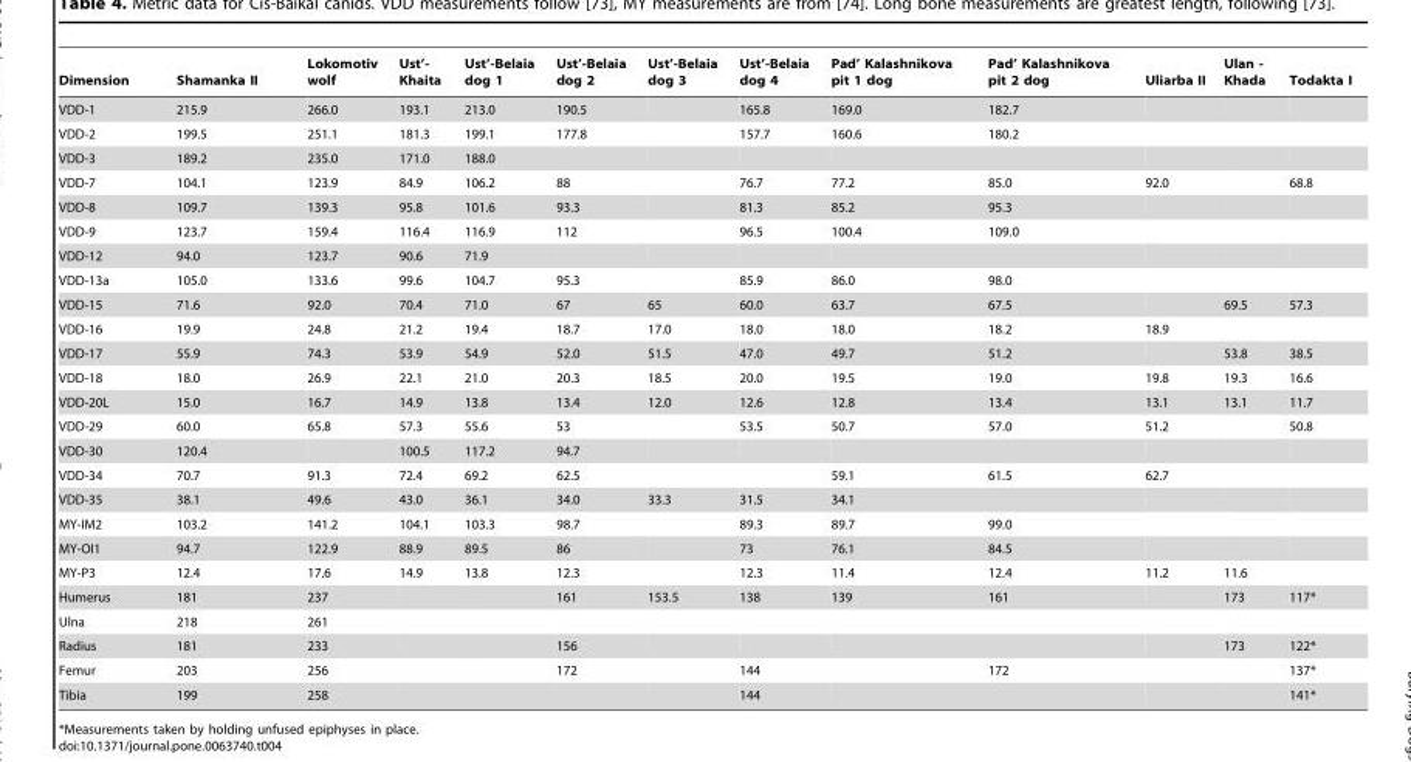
<table><thead><tr><td>Dimension</td><td>Shamanka II</td><td>Lokomotiv wolf</td><td>Ust’- Khaita</td><td>Ust’-Belaia dog 1</td><td>Ust’-Belaia dog 2</td><td>Ust’-Belaia dog 3</td><td>Ust’-Belaia dog 4</td><td>Pad’ Kalashnikova pit 1 dog</td><td>Pad’ Kalashnikova pit 2 dog</td><td>Uliarba II</td><td>Ulan - Khada</td><td>Todakta I</td></tr></thead><tbody><tr><td>VDD-1</td><td>215.9</td><td>266.0</td><td>193.1</td><td>213.0</td><td>190.5</td><td></td><td>165.8</td><td>169.0</td><td>182.7</td><td></td><td></td><td></td></tr><tr><td>VDD-2</td><td>199.5</td><td>251.1</td><td>181.3</td><td>199.1</td><td>177.8</td><td></td><td>157.7</td><td>160.6</td><td>180.2</td><td></td><td></td><td></td></tr><tr><td>VDD-3</td><td>189.2</td><td>235.0</td><td>171.0</td><td>188.0</td><td></td><td></td><td></td><td></td><td></td><td></td><td></td><td></td></tr><tr><td>VDD-7</td><td>104.1</td><td>123.9</td><td>84.9</td><td>106.2</td><td>88</td><td></td><td>76.7</td><td>77.2</td><td>85.0</td><td>92.0</td><td></td><td>68.8</td></tr><tr><td>VDD-8</td><td>109.7</td><td>139.3</td><td>95.8</td><td>101.6</td><td>93.3</td><td></td><td>81.3</td><td>85.2</td><td>95.3</td><td></td><td></td><td></td></tr><tr><td>VDD-9</td><td>123.7</td><td>159.4</td><td>116.4</td><td>116.9</td><td>112</td><td></td><td>96.5</td><td>100.4</td><td>109.0</td><td></td><td></td><td></td></tr><tr><td>VDD-12</td><td>94.0</td><td>123.7</td><td>90.6</td><td>71.9</td><td></td><td></td><td></td><td></td><td></td><td></td><td></td><td></td></tr><tr><td>VDD-13a</td><td>105.0</td><td>133.6</td><td>99.6</td><td>104.7</td><td>95.3</td><td></td><td>85.9</td><td>86.0</td><td>98.0</td><td></td><td></td><td></td></tr><tr><td>VDD-15</td><td>71.6</td><td>92.0</td><td>70.4</td><td>71.0</td><td>67</td><td>65</td><td>60.0</td><td>63.7</td><td>67.5</td><td></td><td>69.5</td><td>57.3</td></tr><tr><td>VDD-16</td><td>19.9</td><td>24.8</td><td>21.2</td><td>19.4</td><td>18.7</td><td>17.0</td><td>18.0</td><td>18.0</td><td>18.2</td><td>18.9</td><td></td><td></td></tr><tr><td>VDD-17</td><td>55.9</td><td>74.3</td><td>53.9</td><td>54.9</td><td>52.0</td><td>51.5</td><td>47.0</td><td>49.7</td><td>51.2</td><td></td><td>53.8</td><td>38.5</td></tr><tr><td>VDD-18</td><td>18.0</td><td>26.9</td><td>22.1</td><td>21.0</td><td>20.3</td><td>18.5</td><td>20.0</td><td>19.5</td><td>19.0</td><td>19.8</td><td>19.3</td><td>16.6</td></tr><tr><td>VDD-20L</td><td>15.0</td><td>16.7</td><td>14.9</td><td>13.8</td><td>13.4</td><td>12.0</td><td>12.6</td><td>12.8</td><td>13.4</td><td>13.1</td><td>13.1</td><td>11.7</td></tr><tr><td>VDD-29</td><td>60.0</td><td>65.8</td><td>57.3</td><td>55.6</td><td>53</td><td></td><td>53.5</td><td>50.7</td><td>57.0</td><td>51.2</td><td></td><td>50.8</td></tr><tr><td>VDD-30</td><td>120.4</td><td></td><td>100.5</td><td>117.2</td><td>94.7</td><td></td><td></td><td></td><td></td><td></td><td></td><td></td></tr><tr><td>VDD-34</td><td>70.7</td><td>91.3</td><td>72.4</td><td>69.2</td><td>62.5</td><td></td><td></td><td>59.1</td><td>61.5</td><td>62.7</td><td></td><td></td></tr><tr><td>VDD-35</td><td>38.1</td><td>49.6</td><td>43.0</td><td>36.1</td><td>34.0</td><td>33.3</td><td>31.5</td><td>34.1</td><td></td><td></td><td></td><td></td></tr><tr><td>MY-IM2</td><td>103.2</td><td>141.2</td><td>104.1</td><td>103.3</td><td>98.7</td><td></td><td>89.3</td><td>89.7</td><td>99.0</td><td></td><td></td><td></td></tr><tr><td>MY-OI1</td><td>94.7</td><td>122.9</td><td>88.9</td><td>89.5</td><td>86</td><td></td><td>73</td><td>76.1</td><td>84.5</td><td></td><td></td><td></td></tr><tr><td>MY-P3</td><td>12.4</td><td>17.6</td><td>14.9</td><td>13.8</td><td>12.3</td><td></td><td>12.3</td><td>11.4</td><td>12.4</td><td>11.2</td><td>11.6</td><td></td></tr><tr><td>Humerus</td><td>181</td><td>237</td><td></td><td></td><td>161</td><td>153.5</td><td>138</td><td>139</td><td>161</td><td></td><td>173</td><td>117*</td></tr><tr><td>Ulna</td><td>218</td><td>261</td><td></td><td></td><td></td><td></td><td></td><td></td><td></td><td></td><td></td><td></td></tr><tr><td>Radius</td><td>181</td><td>233</td><td></td><td></td><td>156</td><td></td><td></td><td></td><td></td><td></td><td>173</td><td>122*</td></tr><tr><td>Femur</td><td>203</td><td>256</td><td></td><td></td><td>172</td><td></td><td>144</td><td></td><td>172</td><td></td><td></td><td>137*</td></tr><tr><td>Tibia</td><td>199</td><td>258</td><td></td><td></td><td></td><td></td><td>144</td><td></td><td></td><td></td><td></td><td>141*</td></tr></tbody></table>